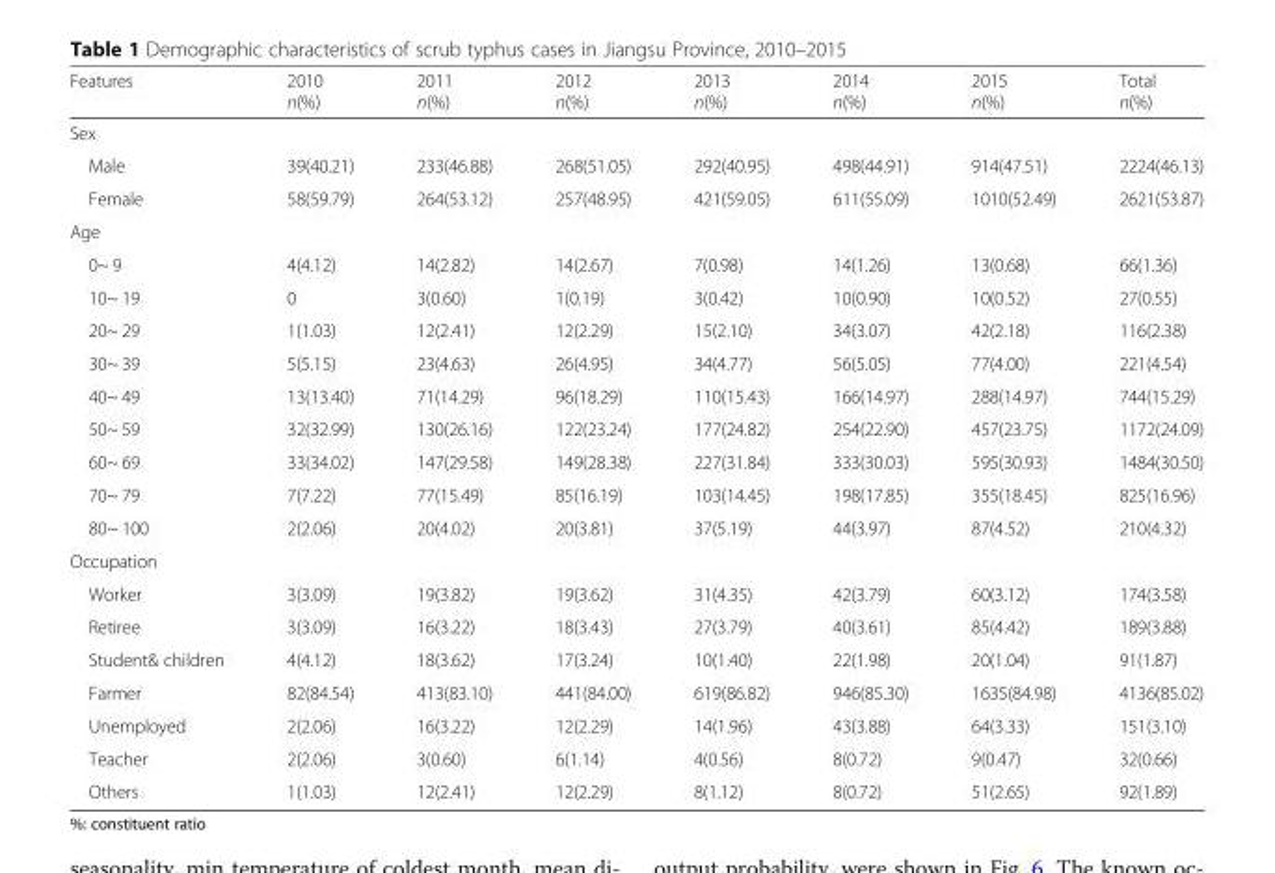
<table><thead><tr><td>Features</td><td>2010 n(%)</td><td>2011 n(%)</td><td>2012 n(%)</td><td>2013 n(%)</td><td>2014 n(%)</td><td>2015 n(%)</td><td>Total n(%)</td></tr></thead><tbody><tr><td colspan="8">Sex</td></tr><tr><td>Male</td><td>39(40.21)</td><td>233(46.88)</td><td>268(51.05)</td><td>292(40.95)</td><td>498(44.91)</td><td>914(47.51)</td><td>2224(46.13)</td></tr><tr><td>Female</td><td>58(59.79)</td><td>264(53.12)</td><td>257(48.95)</td><td>421(59.05)</td><td>611(55.09)</td><td>1010(52.49)</td><td>2621(53.87)</td></tr><tr><td colspan="8">Age</td></tr><tr><td>0~ 9</td><td>4(4.12)</td><td>14(2.82)</td><td>14(2.67)</td><td>7(0.98)</td><td>14(1.26)</td><td>13(0.68)</td><td>66(1.36)</td></tr><tr><td>10~ 19</td><td>0</td><td>3(0.60)</td><td>1(0.19)</td><td>3(0.42)</td><td>10(0.90)</td><td>10(0.52)</td><td>27(0.55)</td></tr><tr><td>20~ 29</td><td>1(1.03)</td><td>12(2.41)</td><td>12(2.29)</td><td>15(2.10)</td><td>34(3.07)</td><td>42(2.18)</td><td>116(2.38)</td></tr><tr><td>30~ 39</td><td>5(5.15)</td><td>23(4.63)</td><td>26(4.95)</td><td>34(4.77)</td><td>56(5.05)</td><td>77(4.00)</td><td>221(4.54)</td></tr><tr><td>40~ 49</td><td>13(13.40)</td><td>71(14.29)</td><td>96(18.29)</td><td>110(15.43)</td><td>166(14.97)</td><td>288(14.97)</td><td>744(15.29)</td></tr><tr><td>50~ 59</td><td>32(32.99)</td><td>130(26.16)</td><td>122(23.24)</td><td>177(24.82)</td><td>254(22.90)</td><td>457(23.75)</td><td>1172(24.09)</td></tr><tr><td>60~ 69</td><td>33(34.02)</td><td>147(29.58)</td><td>149(28.38)</td><td>227(31.84)</td><td>333(30.03)</td><td>595(30.93)</td><td>1484(30.50)</td></tr><tr><td>70~ 79</td><td>7(7.22)</td><td>77(15.49)</td><td>85(16.19)</td><td>103(14.45)</td><td>198(17.85)</td><td>355(18.45)</td><td>825(16.96)</td></tr><tr><td>80~ 100</td><td>2(2.06)</td><td>20(4.02)</td><td>20(3.81)</td><td>37(5.19)</td><td>44(3.97)</td><td>87(4.52)</td><td>210(4.32)</td></tr><tr><td colspan="8">Occupation</td></tr><tr><td>Worker</td><td>3(3.09)</td><td>19(3.82)</td><td>19(3.62)</td><td>31(4.35)</td><td>42(3.79)</td><td>60(3.12)</td><td>174(3.58)</td></tr><tr><td>Retiree</td><td>3(3.09)</td><td>16(3.22)</td><td>18(3.43)</td><td>27(3.79)</td><td>40(3.61)</td><td>85(4.42)</td><td>189(3.88)</td></tr><tr><td>Student&amp; children</td><td>4(4.12)</td><td>18(3.62)</td><td>17(3.24)</td><td>10(1.40)</td><td>22(1.98)</td><td>20(1.04)</td><td>91(1.87)</td></tr><tr><td>Farmer</td><td>82(84.54)</td><td>413(83.10)</td><td>441(84.00)</td><td>619(86.82)</td><td>946(85.30)</td><td>1635(84.98)</td><td>4136(85.02)</td></tr><tr><td>Unemployed</td><td>2(2.06)</td><td>16(3.22)</td><td>12(2.29)</td><td>14(1.96)</td><td>43(3.88)</td><td>64(3.33)</td><td>151(3.10)</td></tr><tr><td>Teacher</td><td>2(2.06)</td><td>3(0.60)</td><td>6(1.14)</td><td>4(0.56)</td><td>8(0.72)</td><td>9(0.47)</td><td>32(0.66)</td></tr><tr><td>Others</td><td>1(1.03)</td><td>12(2.41)</td><td>12(2.29)</td><td>8(1.12)</td><td>8(0.72)</td><td>51(2.65)</td><td>92(1.89)</td></tr></tbody></table>